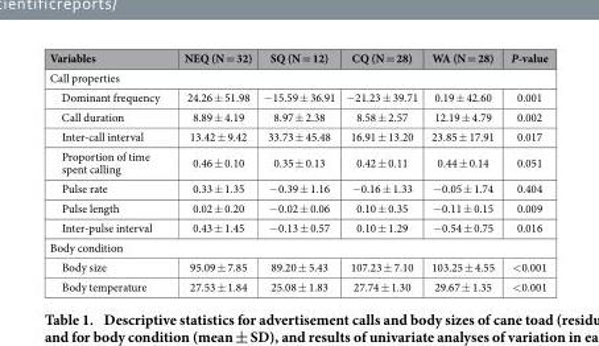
<table><thead><tr><td>Variables</td><td>NEQ (N = 32)</td><td>SQ (N = 12)</td><td>CQ (N = 28)</td><td>WA (N = 28)</td><td>P-value</td></tr></thead><tbody><tr><td colspan="6">Call properties</td></tr><tr><td>Dominant frequency</td><td>24.26 ± 51.98</td><td>− 15.59 ± 36.91</td><td>− 21.23 ± 39.71</td><td>0.19 ± 42.60</td><td>0.001</td></tr><tr><td>Call duration</td><td>8.89 ± 4.19</td><td>8.97 ± 2.38</td><td>8.58 ± 2.57</td><td>12.19 ± 4.79</td><td>0.002</td></tr><tr><td>Inter-call interval</td><td>13.42 ± 9.42</td><td>33.73 ± 45.48</td><td>16.91 ± 13.20</td><td>23.85 ± 17.91</td><td>0.017</td></tr><tr><td>Proportion of time spent calling</td><td>0.46 ± 0.10</td><td>0.35 ± 0.13</td><td>0.42 ± 0.11</td><td>0.44 ± 0.14</td><td>0.051</td></tr><tr><td>Pulse rate</td><td>0.33 ± 1.35</td><td>− 0.39 ± 1.16</td><td>− 0.16 ± 1.33</td><td>− 0.05 ± 1.74</td><td>0.404</td></tr><tr><td>Pulse length</td><td>0.02 ± 0.20</td><td>− 0.02 ± 0.06</td><td>0.10 ± 0.35</td><td>− 0.11 ± 0.15</td><td>0.009</td></tr><tr><td>Inter-pulse interval</td><td>0.43 ± 1.45</td><td>− 0.13 ± 0.57</td><td>0.10 ± 1.29</td><td>− 0.54 ± 0.75</td><td>0.016</td></tr><tr><td colspan="6">Body condition</td></tr><tr><td>Body size</td><td>95.09 ± 7.85</td><td>89.20 ± 5.43</td><td>107.23 ± 7.10</td><td>103.25 ± 4.55</td><td>&lt; 0.001</td></tr><tr><td>Body temperature</td><td>27.53 ± 1.84</td><td>25.08 ± 1.83</td><td>27.74 ± 1.30</td><td>29.67 ± 1.35</td><td>&lt; 0.001</td></tr></tbody></table>